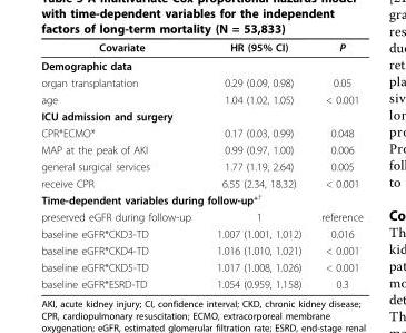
<table><thead><tr><td>Covariate</td><td>HR (95% CI)</td><td>P</td></tr></thead><tbody><tr><td colspan="3">Demographic data</td></tr><tr><td>organ transplantation</td><td>0.29 (0.09, 0.98)</td><td>0.05</td></tr><tr><td>age</td><td>1.04 (1.02, 1.05)</td><td>&lt; 0.001</td></tr><tr><td colspan="3">ICU admission and surgery</td></tr><tr><td>CPR*ECMO*</td><td>0.17 (0.03, 0.99)</td><td>0.048</td></tr><tr><td>MAP at the peak of AKI</td><td>0.99 (0.97, 1.00)</td><td>0.006</td></tr><tr><td>general surgical services</td><td>1.77 (1.19, 2.64)</td><td>0.005</td></tr><tr><td>receive CPR</td><td>6.55 (2.34, 18.32)</td><td>&lt; 0.001</td></tr><tr><td colspan="3">Time-dependent variables during follow-up*<sup>†</sup></td></tr><tr><td>preserved eGFR during follow-up</td><td>1</td><td>reference</td></tr><tr><td>baseline eGFR*CKD3-TD</td><td>1.007 (1.001, 1.012)</td><td>0.016</td></tr><tr><td>baseline eGFR*CKD4-TD</td><td>1.016 (1.010, 1.021)</td><td>&lt; 0.001</td></tr><tr><td>baseline eGFR*CKD5-TD</td><td>1.017 (1.008, 1.026)</td><td>&lt; 0.001</td></tr><tr><td>baseline eGFR*ESRD-TD</td><td>1.054 (0.959, 1.158)</td><td>0.3</td></tr></tbody></table>